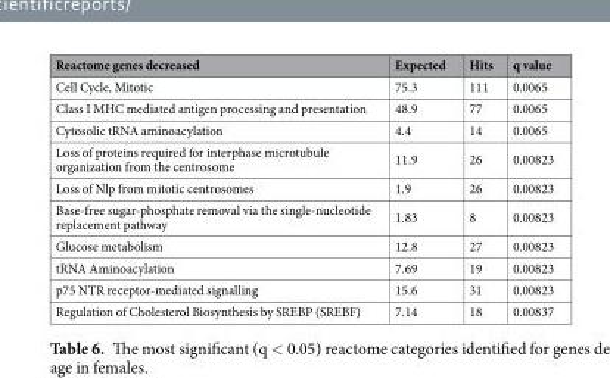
<table><thead><tr><td>Reactome genes decreased</td><td>Expected</td><td>Hits</td><td>q value</td></tr></thead><tbody><tr><td>Cell Cycle, Mitotic</td><td>75.3</td><td>111</td><td>0.0065</td></tr><tr><td>Class I MHC mediated antigen processing and presentation</td><td>48.9</td><td>77</td><td>0.0065</td></tr><tr><td>Cytosolic tRNA aminoacylation</td><td>4.4</td><td>14</td><td>0.0065</td></tr><tr><td>Loss of proteins required for interphase microtubule organization from the centrosome</td><td>11.9</td><td>26</td><td>0.00823</td></tr><tr><td>Loss of Nlp from mitotic centrosomes</td><td>1.9</td><td>26</td><td>0.00823</td></tr><tr><td>Base-free sugar-phosphate removal via the single-nucleotide replacement pathway</td><td>1.83</td><td>8</td><td>0.00823</td></tr><tr><td>Glucose metabolism</td><td>12.8</td><td>27</td><td>0.00823</td></tr><tr><td>tRNA Aminoacylation</td><td>7.69</td><td>19</td><td>0.00823</td></tr><tr><td>p75 NTR receptor-mediated signalling</td><td>15.6</td><td>31</td><td>0.00823</td></tr><tr><td>Regulation of Cholesterol Biosynthesis by SREBP (SREBF)</td><td>7.14</td><td>18</td><td>0.00837</td></tr></tbody></table>